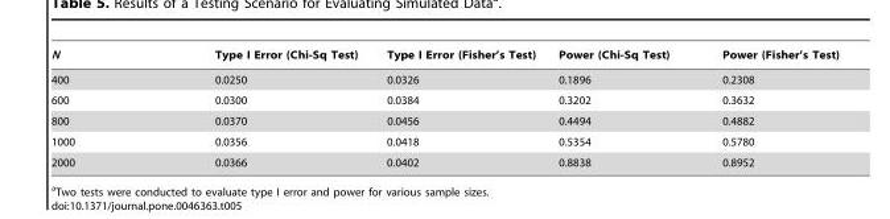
<table><thead><tr><td>N</td><td>Type I Error (Chi-Sq Test)</td><td>Type I Error (Fisher’s Test)</td><td>Power (Chi-Sq Test)</td><td>Power (Fisher’s Test)</td></tr></thead><tbody><tr><td>400</td><td>0.0250</td><td>0.0326</td><td>0.1896</td><td>0.2308</td></tr><tr><td>600</td><td>0.0300</td><td>0.0384</td><td>0.3202</td><td>0.3632</td></tr><tr><td>800</td><td>0.0370</td><td>0.0456</td><td>0.4494</td><td>0.4882</td></tr><tr><td>1000</td><td>0.0356</td><td>0.0418</td><td>0.5354</td><td>0.5780</td></tr><tr><td>2000</td><td>0.0366</td><td>0.0402</td><td>0.8838</td><td>0.8952</td></tr></tbody></table>